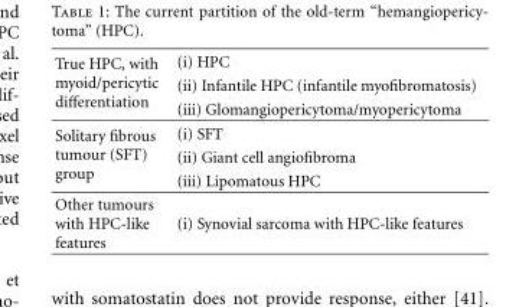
<table><tbody><tr><td rowspan="3">True HPC, with myoid/pericytic differentiation</td><td>(i) HPC</td></tr><tr><td>(ii) Infantile HPC (infantile myofibromatosis)</td></tr><tr><td>(iii) Glomangiopericytoma/myopericytoma</td></tr><tr><td rowspan="3">Solitary fibrous tumour (SFT) group</td><td>(i) SFT</td></tr><tr><td>(ii) Giant cell angiofibroma</td></tr><tr><td>(iii) Lipomatous HPC</td></tr><tr><td>Other tumours with HPC-like features</td><td>(i) Synovial sarcoma with HPC-like features</td></tr></tbody></table>